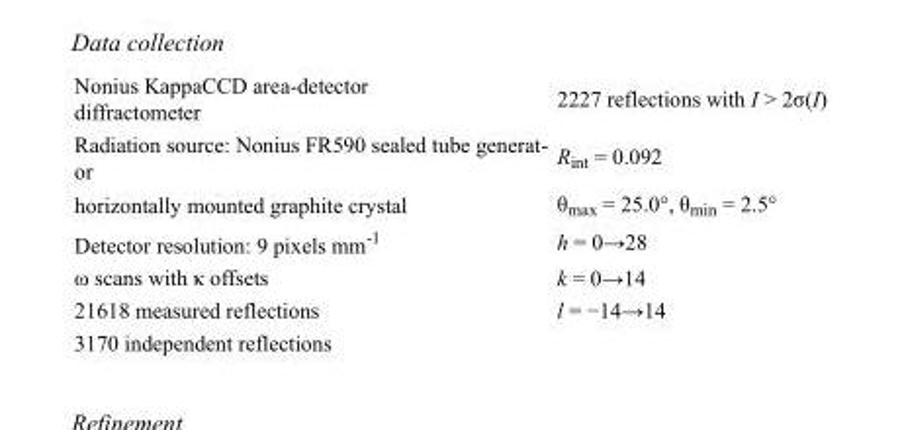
<table><tbody><tr><td>Nonius KappaCCD area-detector diffractometer</td><td>2227 reflections with I &gt; 2σ(I)</td></tr><tr><td>Radiation source: Nonius FR590 sealed tube generat- or</td><td>R<sub>int</sub> = 0.092</td></tr><tr><td>horizontally mounted graphite crystal</td><td>θ<sub>max</sub> = 25.0°, θ<sub>min</sub> = 2.5°</td></tr><tr><td>Detector resolution: 9 pixels mm<sup>-1</sup></td><td>h = 0→28</td></tr><tr><td>ω scans with κ offsets</td><td>k = 0→14</td></tr><tr><td>21618 measured reflections</td><td>l = −14→14</td></tr><tr><td>3170 independent reflections</td><td></td></tr></tbody></table>